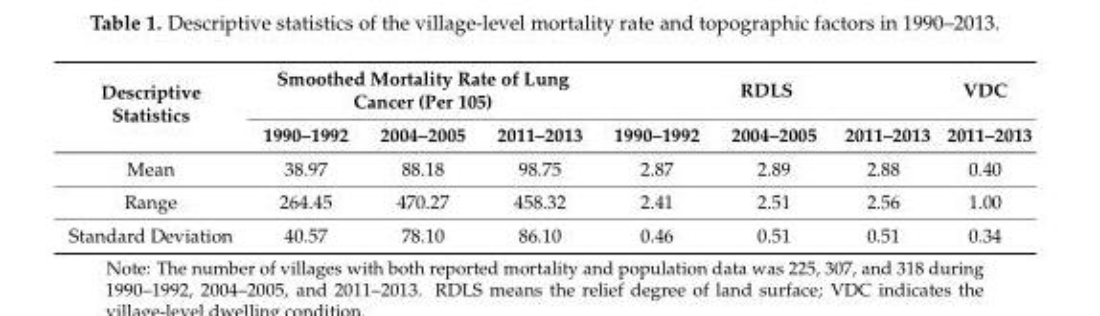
<table><thead><tr><td rowspan="2">Descriptive Statistics</td><td colspan="3">Smoothed Mortality Rate of Lung Cancer (Per 105)</td><td colspan="3">RDLS</td><td rowspan="2">VDC 2011–2013</td></tr><tr><td>1990–1992</td><td>2004–2005</td><td>2011–2013</td><td>1990–1992</td><td>2004–2005</td><td>2011–2013</td></tr></thead><tbody><tr><td>Mean</td><td>38.97</td><td>88.18</td><td>98.75</td><td>2.87</td><td>2.89</td><td>2.88</td><td>0.40</td></tr><tr><td>Range</td><td>264.45</td><td>470.27</td><td>458.32</td><td>2.41</td><td>2.51</td><td>2.56</td><td>1.00</td></tr><tr><td>Standard Deviation</td><td>40.57</td><td>78.10</td><td>86.10</td><td>0.46</td><td>0.51</td><td>0.51</td><td>0.34</td></tr></tbody></table>